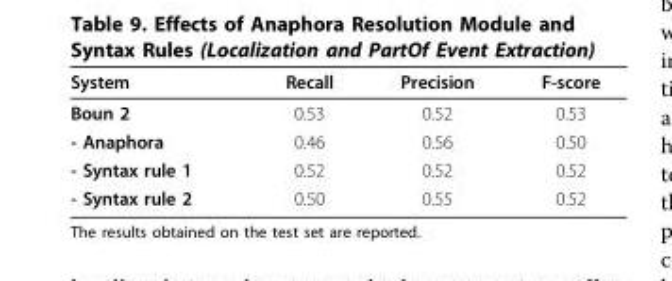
<table><thead><tr><td>System</td><td>Recall</td><td>Precision</td><td>F-score</td></tr></thead><tbody><tr><td>Boun 2</td><td>0.53</td><td>0.52</td><td>0.53</td></tr><tr><td>- Anaphora</td><td>0.46</td><td>0.56</td><td>0.50</td></tr><tr><td>- Syntax rule 1</td><td>0.52</td><td>0.52</td><td>0.52</td></tr><tr><td>- Syntax rule 2</td><td>0.50</td><td>0.55</td><td>0.52</td></tr></tbody></table>